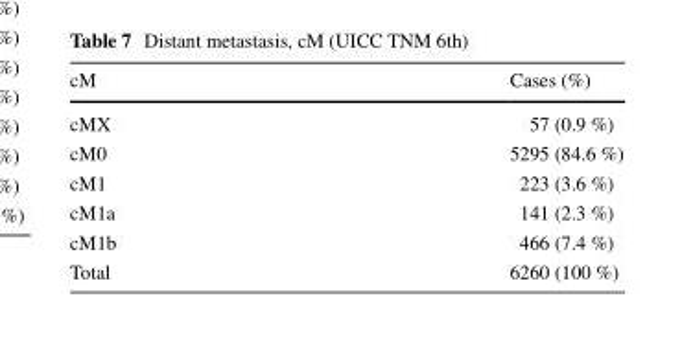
<table><thead><tr><td>cM</td><td>Cases (%)</td></tr></thead><tbody><tr><td>cMX</td><td>57 (0.9 %)</td></tr><tr><td>cM0</td><td>5295 (84.6 %)</td></tr><tr><td>cM1</td><td>223 (3.6 %)</td></tr><tr><td>cM1a</td><td>141 (2.3 %)</td></tr><tr><td>cM1b</td><td>466 (7.4 %)</td></tr><tr><td>Total</td><td>6260 (100 %)</td></tr></tbody></table>